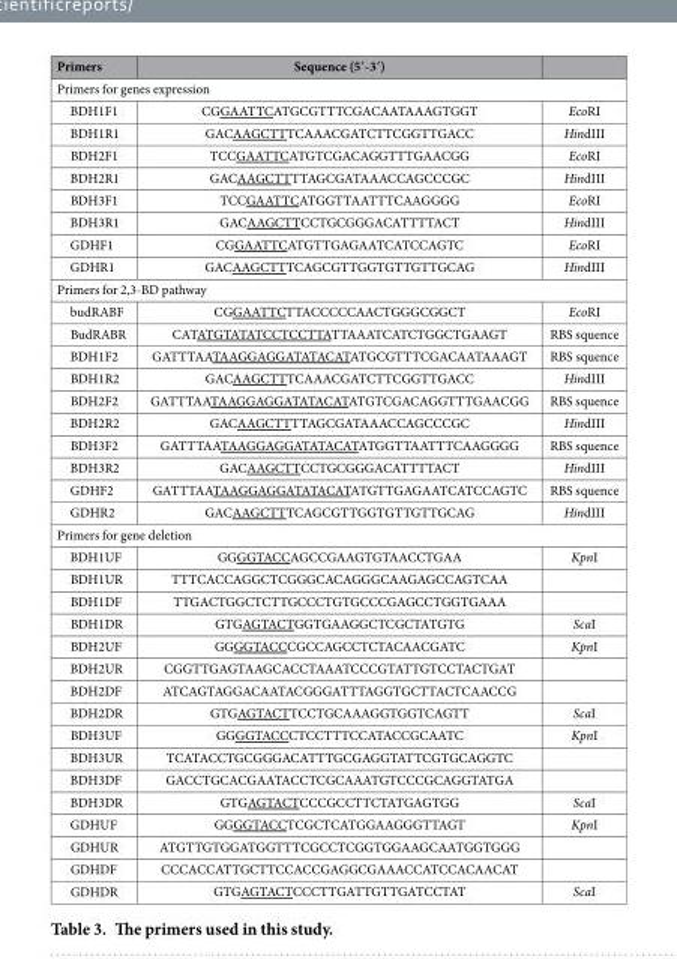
<table><thead><tr><td>Primers</td><td>Sequence (5′-3′)</td><td></td></tr></thead><tbody><tr><td colspan="3">Primers for genes expression</td></tr><tr><td>BDH1F1</td><td>CGGAATTCATGCGTTTCGACAATAAAGTGGT</td><td>EcoRI</td></tr><tr><td>BDH1R1</td><td>GACAAGCTTTCAAACGATCTTCGGTTGACC</td><td>HindIII</td></tr><tr><td>BDH2F1</td><td>TCCGAATTCATGTCGACAGGTTTGAACGG</td><td>EcoRI</td></tr><tr><td>BDH2R1</td><td>GACAAGCTTTTAGCGATAAACCAGCCCGC</td><td>HindIII</td></tr><tr><td>BDH3F1</td><td>TCCGAATTCATGGTTAATTTCAAGGGG</td><td>EcoRI</td></tr><tr><td>BDH3R1</td><td>GACAAGCTTCCTGCGGGACATTTTACT</td><td>HindIII</td></tr><tr><td>GDHF1</td><td>CGGAATTCATGTTGAGAATCATCCAGTC</td><td>EcoRI</td></tr><tr><td>GDHR1</td><td>GACAAGCTTTCAGCGTTGGTGTTGTTGCAG</td><td>HindIII</td></tr><tr><td colspan="3">Primers for 2,3-BD pathway</td></tr><tr><td>budRABF</td><td>CGGAATTCTTACCCCCAACTGGGCGGCT</td><td>EcoRI</td></tr><tr><td>BudRABR</td><td>CATATGTATATCCTCCTTATTAAATCATCTGGCTGAAGT</td><td>RBS squence</td></tr><tr><td>BDH1F2</td><td>GATTTAATAAGGAGGATATACATATGCGTTTCGACAATAAAGT</td><td>RBS squence</td></tr><tr><td>BDH1R2</td><td>GACAAGCTTTCAAACGATCTTCGGTTGACC</td><td>HindIII</td></tr><tr><td>BDH2F2</td><td>GATTTAATAAGGAGGATATACATATGTCGACAGGTTTGAACGG</td><td>RBS squence</td></tr><tr><td>BDH2R2</td><td>GACAAGCTTTTAGCGATAAACCAGCCCGC</td><td>HindIII</td></tr><tr><td>BDH3F2</td><td>GATTTAATAAGGAGGATATACATATGGTTAATTTCAAGGGG</td><td>RBS squence</td></tr><tr><td>BDH3R2</td><td>GACAAGCTTCCTGCGGGACATTTTACT</td><td>HindIII</td></tr><tr><td>GDHF2</td><td>GATTTAATAAGGAGGATATACATATGTTGAGAATCATCCAGTC</td><td>RBS squence</td></tr><tr><td>GDHR2</td><td>GACAAGCTTTCAGCGTTGGTGTTGTTGCAG</td><td>HindIII</td></tr><tr><td colspan="3">Primers for gene deletion</td></tr><tr><td>BDH1UF</td><td>GGGGTACCAGCCGAAGTGTAACCTGAA</td><td>KpnI</td></tr><tr><td>BDH1UR</td><td>TTTCACCAGGCTCGGGCACAGGGCAAGAGCCAGTCAA</td><td></td></tr><tr><td>BDH1DF</td><td>TTGACTGGCTCTTGCCCTGTGCCCGAGCCTGGTGAAA</td><td></td></tr><tr><td>BDH1DR</td><td>GTGAGTACTGGTGAAGGCTCGCTATGTG</td><td>ScaI</td></tr><tr><td>BDH2UF</td><td>GGGGTACCCGCCAGCCTCTACAACGATC</td><td>KpnI</td></tr><tr><td>BDH2UR</td><td>CGGTTGAGTAAGCACCTAAATCCCGTATTGTCCTACTGAT</td><td></td></tr><tr><td>BDH2DF</td><td>ATCAGTAGGACAATACGGGATTTAGGTGCTTACTCAACCG</td><td></td></tr><tr><td>BDH2DR</td><td>GTGAGTACTTCCTGCAAAGGTGGTCAGTT</td><td>ScaI</td></tr><tr><td>BDH3UF</td><td>GGGGTACCCTCCTTTCCATACCGCAATC</td><td>KpnI</td></tr><tr><td>BDH3UR</td><td>TCATACCTGCGGGACATTTGCGAGGTATTCGTGCAGGTC</td><td></td></tr><tr><td>BDH3DF</td><td>GACCTGCACGAATACCTCGCAAATGTCCCGCAGGTATGA</td><td></td></tr><tr><td>BDH3DR</td><td>GTGAGTACTCCCGCCTTCTATGAGTGG</td><td>ScaI</td></tr><tr><td>GDHUF</td><td>GGGGTACCTCGCTCATGGAAGGGTTAGT</td><td>KpnI</td></tr><tr><td>GDHUR</td><td>ATGTTGTGGATGGTTTCGCCTCGGTGGAAGCAATGGTGGG</td><td></td></tr><tr><td>GDHDF</td><td>CCCACCATTGCTTCCACCGAGGCGAAACCATCCACAACAT</td><td></td></tr><tr><td>GDHDR</td><td>GTGAGTACTCCCTTGATTGTTGATCCTAT</td><td>ScaI</td></tr></tbody></table>